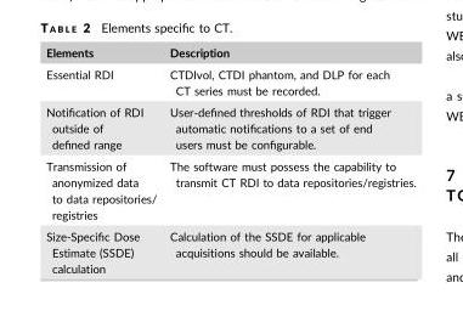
<table><thead><tr><td>Elements</td><td>Description</td></tr></thead><tbody><tr><td>Essential RDI</td><td>CTDIvol, CTDI phantom, and DLP for each CT series must be recorded.</td></tr><tr><td>Notification of RDI outside of defined range</td><td>User-defined thresholds of RDI that trigger automatic notifications to a set of end users must be configurable.</td></tr><tr><td>Transmission of anonymized data to data repositories/ registries</td><td>The software must possess the capability to transmit CT RDI to data repositories/registries.</td></tr><tr><td>Size-Specific Dose Estimate (SSDE) calculation</td><td>Calculation of the SSDE for applicable acquisitions should be available.</td></tr></tbody></table>